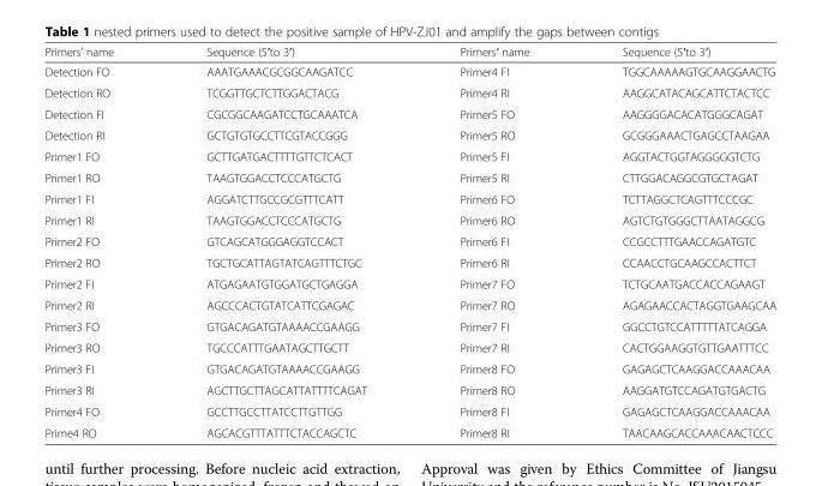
<table><thead><tr><td>Primers’ name</td><td>Sequence (5′to 3′)</td><td>Primers′ name</td><td>Sequence (5′to 3′)</td></tr></thead><tbody><tr><td>Detection FO</td><td>AAATGAAACGCGGCAAGATCC</td><td>Primer4 FI</td><td>TGGCAAAAAGTGCAAGGAACTG</td></tr><tr><td>Detection RO</td><td>TCGGTTGCTCTTGGACTACG</td><td>Primer4 RI</td><td>AAGGCATACAGCATTCTACTCC</td></tr><tr><td>Detection FI</td><td>CGCGGCAAGATCCTGCAAATCA</td><td>Primer5 FO</td><td>AAGGGGACACATGGGCAGAT</td></tr><tr><td>Detection RI</td><td>GCTGTGTGCCTTCGTACCGGG</td><td>Primer5 RO</td><td>GCGGGAAACTGAGCCTAAGAA</td></tr><tr><td>Primer1 FO</td><td>GCTTGATGACTTTTGTTCTCACT</td><td>Primer5 FI</td><td>AGGTACTGGTAGGGGGTCTG</td></tr><tr><td>Primer1 RO</td><td>TAAGTGGACCTCCCATGCTG</td><td>Primer5 RI</td><td>CTTGGACAGGCGTGCTAGAT</td></tr><tr><td>Primer1 FI</td><td>AGGATCTTGCCGCGTTTCATT</td><td>Primer6 FO</td><td>TCTTAGGCTCAGTTTCCCGC</td></tr><tr><td>Primer1 RI</td><td>TAAGTGGACCTCCCATGCTG</td><td>Primer6 RO</td><td>AGTCTGTGGGCTTAATAGGCG</td></tr><tr><td>Primer2 FO</td><td>GTCAGCATGGGAGGTCCACT</td><td>Primer6 FI</td><td>CCGCCTTTGAACCAGATGTC</td></tr><tr><td>Primer2 RO</td><td>TGCTGCATTAGTATCAGTTTCTGC</td><td>Primer6 RI</td><td>CCAACCTGCAAGCCACTTCT</td></tr><tr><td>Primer2 FI</td><td>ATGAGAATGTGGATGCTGAGGA</td><td>Primer7 FO</td><td>TCTGCAATGACCACCAGAAGT</td></tr><tr><td>Primer2 RI</td><td>AGCCCACTGTATCATTCGAGAC</td><td>Primer7 RO</td><td>AGAGAACCACTAGGTGAAGCAA</td></tr><tr><td>Primer3 FO</td><td>GTGACAGATGTAAAACCGAAGG</td><td>Primer7 FI</td><td>GGCCTGTCCATTTTTATCAGGA</td></tr><tr><td>Primer3 RO</td><td>TGCCCATTTGAATAGCTTGCTT</td><td>Primer7 RI</td><td>CACTGGAAGGTGTTGAATTTCC</td></tr><tr><td>Primer3 FI</td><td>GTGACAGATGTAAAACCGAAGG</td><td>Primer8 FO</td><td>GAGAGCTCAAGGACCAAACAA</td></tr><tr><td>Primer3 RI</td><td>AGCTTGCTTAGCATTATTTTCAGAT</td><td>Primer8 RO</td><td>AAGGATGTCCAGATGTGACTG</td></tr><tr><td>Primer4 FO</td><td>GCCTTGCCTTATCCTTGTTGG</td><td>Primer8 FI</td><td>GAGAGCTCAAGGACCAAACAA</td></tr><tr><td>Prime4 RO</td><td>AGCACGTTTATTTCTACCAGCTC</td><td>Primer8 RI</td><td>TAACAAGCACCAAACAACTCCC</td></tr></tbody></table>